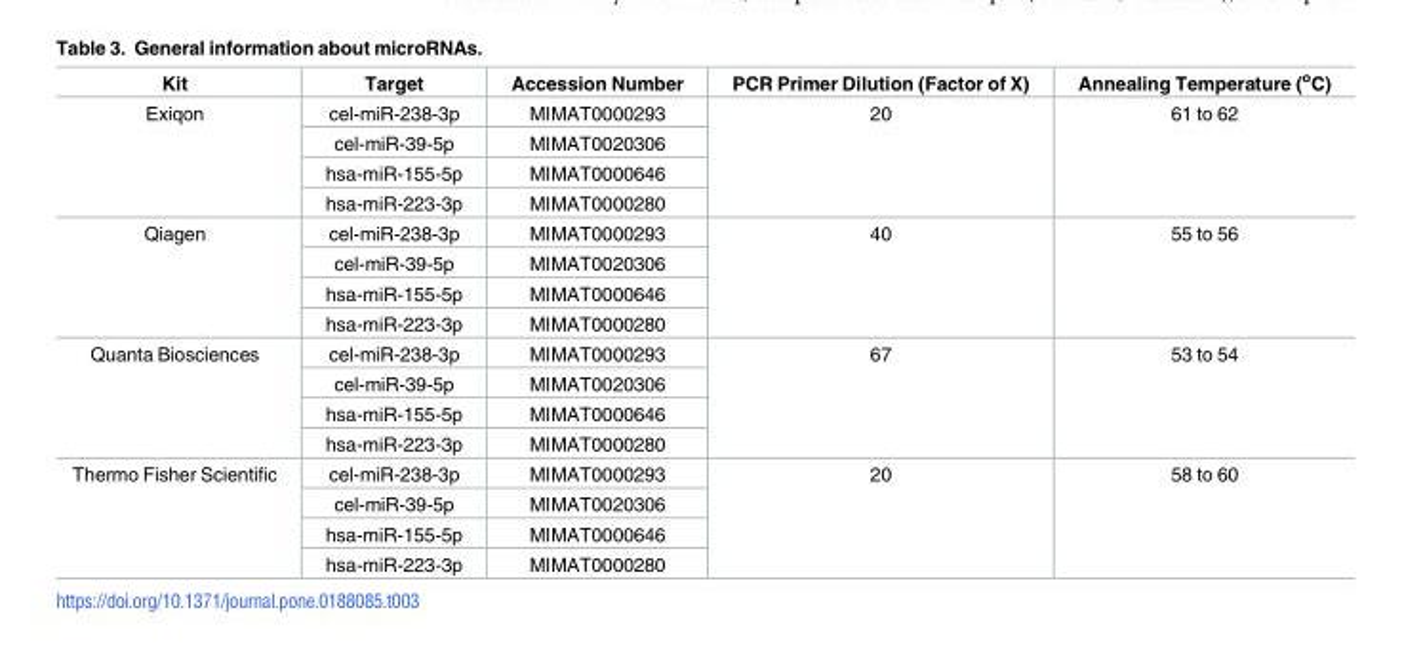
<table><thead><tr><td>Kit</td><td>Target</td><td>Accession Number</td><td>PCR Primer Dilution (Factor of X)</td><td>Annealing Temperature (<sup>o</sup>C)</td></tr></thead><tbody><tr><td rowspan="4">Exiqon</td><td>cel-miR-238-3p</td><td>MIMAT0000293</td><td rowspan="4">20</td><td rowspan="4">61 to 62</td></tr><tr><td>cel-miR-39-5p</td><td>MIMAT0020306</td></tr><tr><td>hsa-miR-155-5p</td><td>MIMAT0000646</td></tr><tr><td>hsa-miR-223-3p</td><td>MIMAT0000280</td></tr><tr><td rowspan="4">Qiagen</td><td>cel-miR-238-3p</td><td>MIMAT0000293</td><td rowspan="4">40</td><td rowspan="4">55 to 56</td></tr><tr><td>cel-miR-39-5p</td><td>MIMAT0020306</td></tr><tr><td>hsa-miR-155-5p</td><td>MIMAT0000646</td></tr><tr><td>hsa-miR-223-3p</td><td>MIMAT0000280</td></tr><tr><td rowspan="4">Quanta Biosciences</td><td>cel-miR-238-3p</td><td>MIMAT0000293</td><td rowspan="4">67</td><td rowspan="4">53 to 54</td></tr><tr><td>cel-miR-39-5p</td><td>MIMAT0020306</td></tr><tr><td>hsa-miR-155-5p</td><td>MIMAT0000646</td></tr><tr><td>hsa-miR-223-3p</td><td>MIMAT0000280</td></tr><tr><td rowspan="4">Thermo Fisher Scientific</td><td>cel-miR-238-3p</td><td>MIMAT0000293</td><td rowspan="4">20</td><td rowspan="4">58 to 60</td></tr><tr><td>cel-miR-39-5p</td><td>MIMAT0020306</td></tr><tr><td>hsa-miR-155-5p</td><td>MIMAT0000646</td></tr><tr><td>hsa-miR-223-3p</td><td>MIMAT0000280</td></tr></tbody></table>